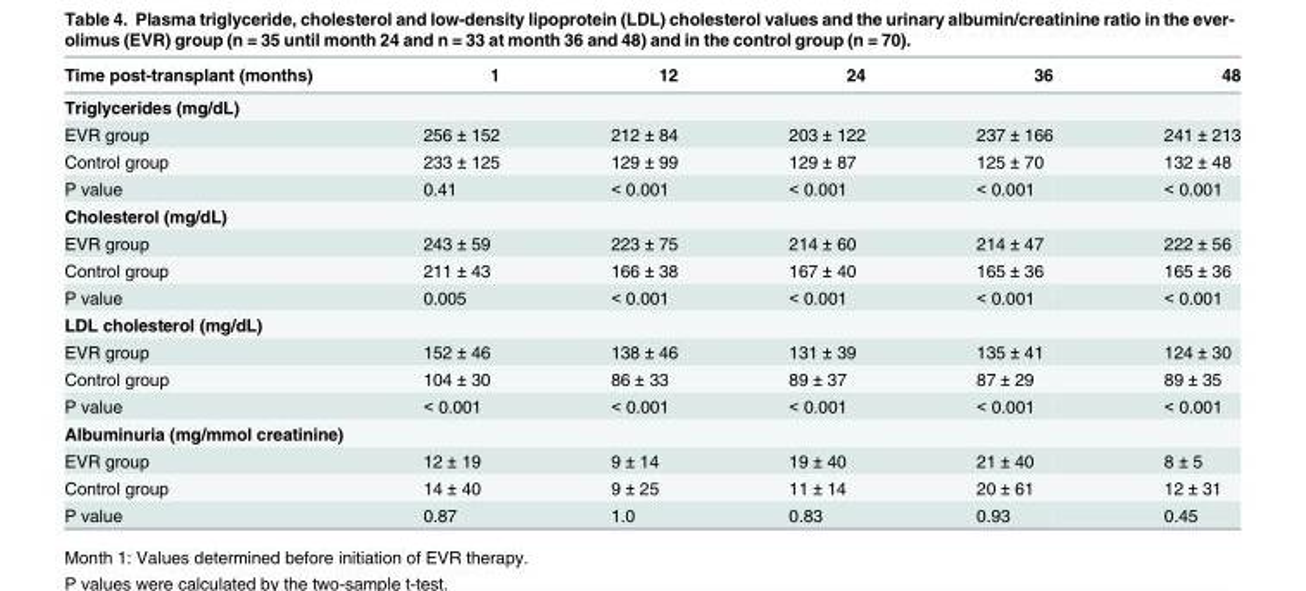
<table><thead><tr><td>Time post-transplant (months)</td><td>1</td><td>12</td><td>24</td><td>36</td><td>48</td></tr></thead><tbody><tr><td colspan="6">Triglycerides (mg/dL)</td></tr><tr><td>EVR group</td><td>256 ± 152</td><td>212 ± 84</td><td>203 ± 122</td><td>237 ± 166</td><td>241 ± 213</td></tr><tr><td>Control group</td><td>233 ± 125</td><td>129 ± 99</td><td>129 ± 87</td><td>125 ± 70</td><td>132 ± 48</td></tr><tr><td>P value</td><td>0.41</td><td>&lt; 0.001</td><td>&lt; 0.001</td><td>&lt; 0.001</td><td>&lt; 0.001</td></tr><tr><td colspan="6">Cholesterol (mg/dL)</td></tr><tr><td>EVR group</td><td>243 ± 59</td><td>223 ± 75</td><td>214 ± 60</td><td>214 ± 47</td><td>222 ± 56</td></tr><tr><td>Control group</td><td>211 ± 43</td><td>166 ± 38</td><td>167 ± 40</td><td>165 ± 36</td><td>165 ± 36</td></tr><tr><td>P value</td><td>0.005</td><td>&lt; 0.001</td><td>&lt; 0.001</td><td>&lt; 0.001</td><td>&lt; 0.001</td></tr><tr><td colspan="6">LDL cholesterol (mg/dL)</td></tr><tr><td>EVR group</td><td>152 ± 46</td><td>138 ± 46</td><td>131 ± 39</td><td>135 ± 41</td><td>124 ± 30</td></tr><tr><td>Control group</td><td>104 ± 30</td><td>86 ± 33</td><td>89 ± 37</td><td>87 ± 29</td><td>89 ± 35</td></tr><tr><td>P value</td><td>&lt; 0.001</td><td>&lt; 0.001</td><td>&lt; 0.001</td><td>&lt; 0.001</td><td>&lt; 0.001</td></tr><tr><td colspan="6">Albuminuria (mg/mmol creatinine)</td></tr><tr><td>EVR group</td><td>12 ± 19</td><td>9 ± 14</td><td>19 ± 40</td><td>21 ± 40</td><td>8 ± 5</td></tr><tr><td>Control group</td><td>14 ± 40</td><td>9 ± 25</td><td>11 ± 14</td><td>20 ± 61</td><td>12 ± 31</td></tr><tr><td>P value</td><td>0.87</td><td>1.0</td><td>0.83</td><td>0.93</td><td>0.45</td></tr></tbody></table>